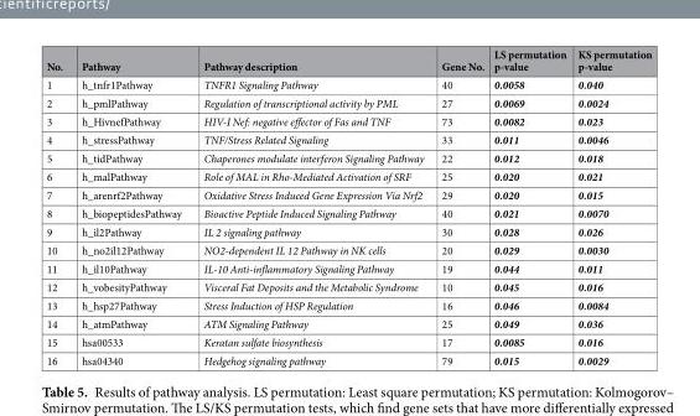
<table><thead><tr><td>No.</td><td>Pathway</td><td>Pathway description</td><td>Gene No.</td><td>LS permutation p-value</td><td>KS permutation p-value</td></tr></thead><tbody><tr><td>1</td><td>h_tnfr1Pathway</td><td>TNFR1 Signaling Pathway</td><td>40</td><td>0.0058</td><td>0.040</td></tr><tr><td>2</td><td>h_pmlPathway</td><td>Regulation of transcriptional activity by PML</td><td>27</td><td>0.0069</td><td>0.0024</td></tr><tr><td>3</td><td>h_HivnefPathway</td><td>HIV-I Nef: negative effector of Fas and TNF</td><td>73</td><td>0.0082</td><td>0.023</td></tr><tr><td>4</td><td>h_stressPathway</td><td>TNF/Stress Related Signaling</td><td>33</td><td>0.011</td><td>0.0046</td></tr><tr><td>5</td><td>h_tidPathway</td><td>Chaperones modulate interferon Signaling Pathway</td><td>22</td><td>0.012</td><td>0.018</td></tr><tr><td>6</td><td>h_malPathway</td><td>Role of MAL in Rho-Mediated Activation of SRF</td><td>25</td><td>0.020</td><td>0.021</td></tr><tr><td>7</td><td>h_arenrf2Pathway</td><td>Oxidative Stress Induced Gene Expression Via Nrf2</td><td>29</td><td>0.020</td><td>0.015</td></tr><tr><td>8</td><td>h_biopeptidesPathway</td><td>Bioactive Peptide Induced Signaling Pathway</td><td>40</td><td>0.021</td><td>0.0070</td></tr><tr><td>9</td><td>h_il2Pathway</td><td>IL 2 signaling pathway</td><td>30</td><td>0.028</td><td>0.026</td></tr><tr><td>10</td><td>h_no2il12Pathway</td><td>NO2-dependent IL 12 Pathway in NK cells</td><td>20</td><td>0.029</td><td>0.0030</td></tr><tr><td>11</td><td>h_il10Pathway</td><td>IL-10 Anti-inflammatory Signaling Pathway</td><td>19</td><td>0.044</td><td>0.011</td></tr><tr><td>12</td><td>h_vobesityPathway</td><td>Visceral Fat Deposits and the Metabolic Syndrome</td><td>10</td><td>0.045</td><td>0.016</td></tr><tr><td>13</td><td>h_hsp27Pathway</td><td>Stress Induction of HSP Regulation</td><td>16</td><td>0.046</td><td>0.0084</td></tr><tr><td>14</td><td>h_atmPathway</td><td>ATM Signaling Pathway</td><td>25</td><td>0.049</td><td>0.036</td></tr><tr><td>15</td><td>hsa00533</td><td>Keratan sulfate biosynthesis</td><td>17</td><td>0.0085</td><td>0.016</td></tr><tr><td>16</td><td>hsa04340</td><td>Hedgehog signaling pathway</td><td>79</td><td>0.015</td><td>0.0029</td></tr></tbody></table>